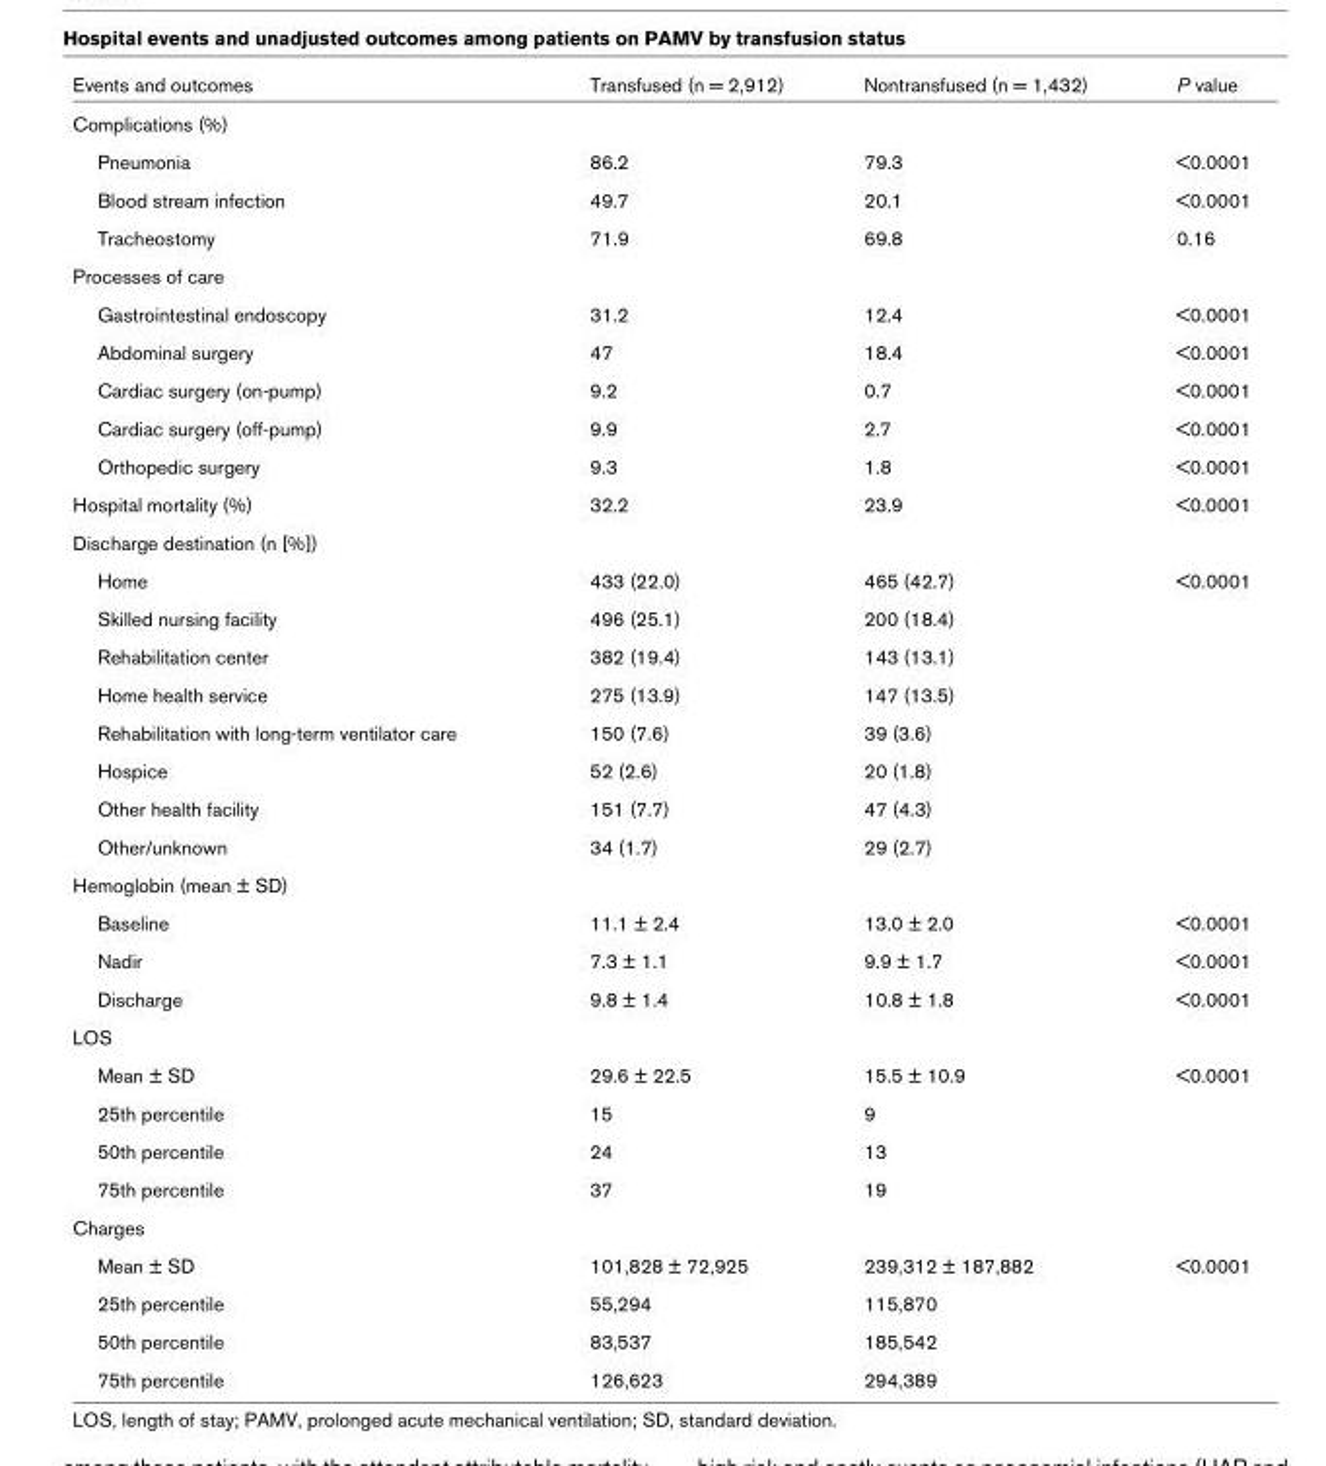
<table><thead><tr><td>Events and outcomes</td><td>Transfused (n = 2,912)</td><td>Nontransfused (n = 1,432)</td><td>P value</td></tr></thead><tbody><tr><td colspan="4">Complications (%)</td></tr><tr><td>Pneumonia</td><td>86.2</td><td>79.3</td><td>&lt;0.0001</td></tr><tr><td>Blood stream infection</td><td>49.7</td><td>20.1</td><td>&lt;0.0001</td></tr><tr><td>Tracheostomy</td><td>71.9</td><td>69.8</td><td>0.16</td></tr><tr><td colspan="4">Processes of care</td></tr><tr><td>Gastrointestinal endoscopy</td><td>31.2</td><td>12.4</td><td>&lt;0.0001</td></tr><tr><td>Abdominal surgery</td><td>47</td><td>18.4</td><td>&lt;0.0001</td></tr><tr><td>Cardiac surgery (on-pump)</td><td>9.2</td><td>0.7</td><td>&lt;0.0001</td></tr><tr><td>Cardiac surgery (off-pump)</td><td>9.9</td><td>2.7</td><td>&lt;0.0001</td></tr><tr><td>Orthopedic surgery</td><td>9.3</td><td>1.8</td><td>&lt;0.0001</td></tr><tr><td>Hospital mortality (%)</td><td>32.2</td><td>23.9</td><td>&lt;0.0001</td></tr><tr><td colspan="4">Discharge destination (n [%])</td></tr><tr><td>Home</td><td>433 (22.0)</td><td>465 (42.7)</td><td>&lt;0.0001</td></tr><tr><td>Skilled nursing facility</td><td>496 (25.1)</td><td>200 (18.4)</td><td></td></tr><tr><td>Rehabilitation center</td><td>382 (19.4)</td><td>143 (13.1)</td><td></td></tr><tr><td>Home health service</td><td>275 (13.9)</td><td>147 (13.5)</td><td></td></tr><tr><td>Rehabilitation with long-term ventilator care</td><td>150 (7.6)</td><td>39 (3.6)</td><td></td></tr><tr><td>Hospice</td><td>52 (2.6)</td><td>20 (1.8)</td><td></td></tr><tr><td>Other health facility</td><td>151 (7.7)</td><td>47 (4.3)</td><td></td></tr><tr><td>Other/unknown</td><td>34 (1.7)</td><td>29 (2.7)</td><td></td></tr><tr><td colspan="4">Hemoglobin (mean ± SD)</td></tr><tr><td>Baseline</td><td>11.1 ± 2.4</td><td>13.0 ± 2.0</td><td>&lt;0.0001</td></tr><tr><td>Nadir</td><td>7.3 ± 1.1</td><td>9.9 ± 1.7</td><td>&lt;0.0001</td></tr><tr><td>Discharge</td><td>9.8 ± 1.4</td><td>10.8 ± 1.8</td><td>&lt;0.0001</td></tr><tr><td colspan="4">LOS</td></tr><tr><td>Mean ± SD</td><td>29.6 ± 22.5</td><td>15.5 ± 10.9</td><td>&lt;0.0001</td></tr><tr><td>25th percentile</td><td>15</td><td>9</td><td></td></tr><tr><td>50th percentile</td><td>24</td><td>13</td><td></td></tr><tr><td>75th percentile</td><td>37</td><td>19</td><td></td></tr><tr><td colspan="4">Charges</td></tr><tr><td>Mean ± SD</td><td>101,828 ± 72,925</td><td>239,312 ± 187,882</td><td>&lt;0.0001</td></tr><tr><td>25th percentile</td><td>55,294</td><td>115,870</td><td></td></tr><tr><td>50th percentile</td><td>83,537</td><td>185,542</td><td></td></tr><tr><td>75th percentile</td><td>126,623</td><td>294,389</td><td></td></tr></tbody></table>